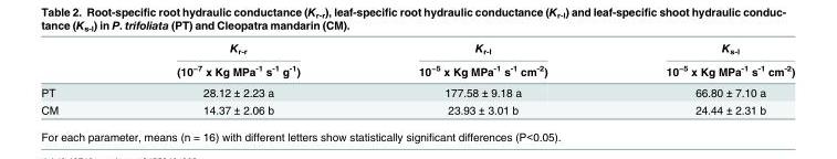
<table><thead><tr><td rowspan="2"></td><td rowspan="2">K<sub>r-r</sub> (10<sup>−7</sup> x Kg MPa<sup>-1</sup> s<sup>-1</sup> g<sup>-1</sup>)</td><td rowspan="2">K<sub>r-l</sub> 10<sup>−5</sup> x Kg MPa<sup>-1</sup> s<sup>-1</sup> cm<sup>-2</sup>)</td><td rowspan="2">K<sub>s-l</sub> 10<sup>−5</sup> x Kg MPa<sup>-1</sup> s<sup>-1</sup> cm<sup>-2</sup>)</td></tr><tr></tr></thead><tbody><tr><td>PT</td><td>28.12 ± 2.23 a</td><td>177.58 ± 9.18 a</td><td>66.80 ± 7.10 a</td></tr><tr><td>CM</td><td>14.37 ± 2.06 b</td><td>23.93 ± 3.01 b</td><td>24.44 ± 2.31 b</td></tr></tbody></table>